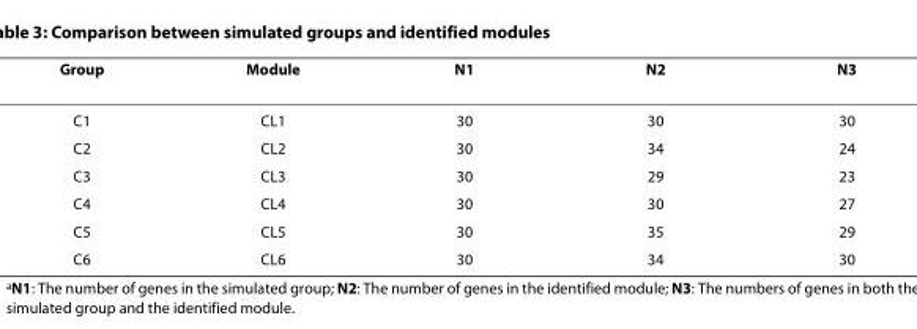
<table><thead><tr><td>Group</td><td>Module</td><td>N1</td><td>N2</td><td>N3</td></tr></thead><tbody><tr><td>C1</td><td>CL1</td><td>30</td><td>30</td><td>30</td></tr><tr><td>C2</td><td>CL2</td><td>30</td><td>34</td><td>24</td></tr><tr><td>C3</td><td>CL3</td><td>30</td><td>29</td><td>23</td></tr><tr><td>C4</td><td>CL4</td><td>30</td><td>30</td><td>27</td></tr><tr><td>C5</td><td>CL5</td><td>30</td><td>35</td><td>29</td></tr><tr><td>C6</td><td>CL6</td><td>30</td><td>34</td><td>30</td></tr></tbody></table>